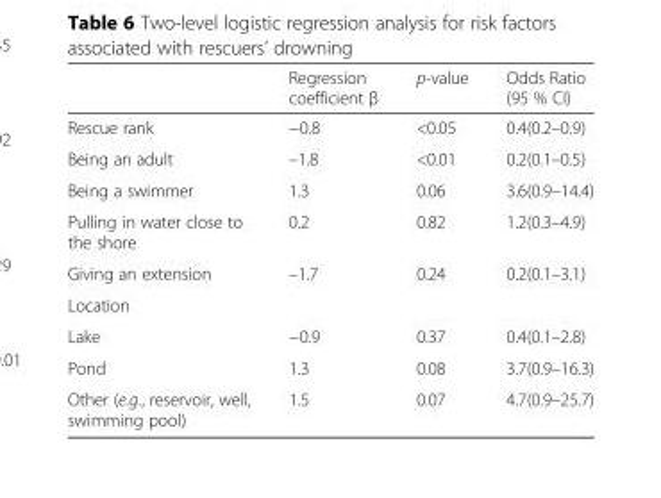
<table><thead><tr><td></td><td>Regression coefficient β</td><td>p-value</td><td>Odds Ratio (95 % CI)</td></tr></thead><tbody><tr><td>Rescue rank</td><td>−0.8</td><td>&lt;0.05</td><td>0.4(0.2–0.9)</td></tr><tr><td>Being an adult</td><td>–1.8</td><td>&lt;0.01</td><td>0.2(0.1–0.5)</td></tr><tr><td>Being a swimmer</td><td>1.3</td><td>0.06</td><td>3.6(0.9–14.4)</td></tr><tr><td>Pulling in water close to the shore</td><td>0.2</td><td>0.82</td><td>1.2(0.3–4.9)</td></tr><tr><td>Giving an extension</td><td>–1.7</td><td>0.24</td><td>0.2(0.1–3.1)</td></tr><tr><td colspan="4">Location</td></tr><tr><td>Lake</td><td>−0.9</td><td>0.37</td><td>0.4(0.1–2.8)</td></tr><tr><td>Pond</td><td>1.3</td><td>0.08</td><td>3.7(0.9–16.3)</td></tr><tr><td>Other (e.g., reservoir, well, swimming pool)</td><td>1.5</td><td>0.07</td><td>4.7(0.9–25.7)</td></tr></tbody></table>